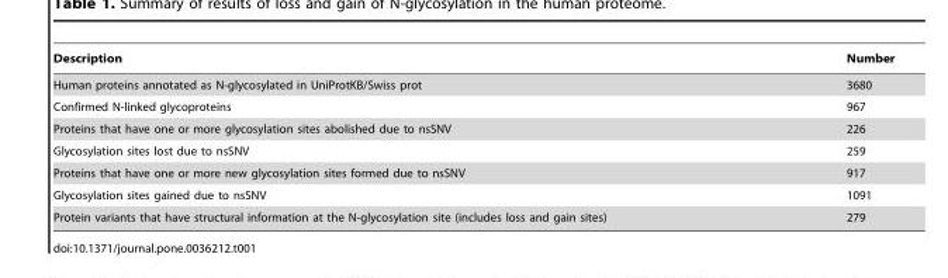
<table><thead><tr><td>Description</td><td>Number</td></tr></thead><tbody><tr><td>Human proteins annotated as N-glycosylated in UniProtKB/Swiss prot</td><td>3680</td></tr><tr><td>Confirmed N-linked glycoproteins</td><td>967</td></tr><tr><td>Proteins that have one or more glycosylation sites abolished due to nsSNV</td><td>226</td></tr><tr><td>Glycosylation sites lost due to nsSNV</td><td>259</td></tr><tr><td>Proteins that have one or more new glycosylation sites formed due to nsSNV</td><td>917</td></tr><tr><td>Glycosylation sites gained due to nsSNV</td><td>1091</td></tr><tr><td>Protein variants that have structural information at the N-glycosylation site (includes loss and gain sites)</td><td>279</td></tr></tbody></table>